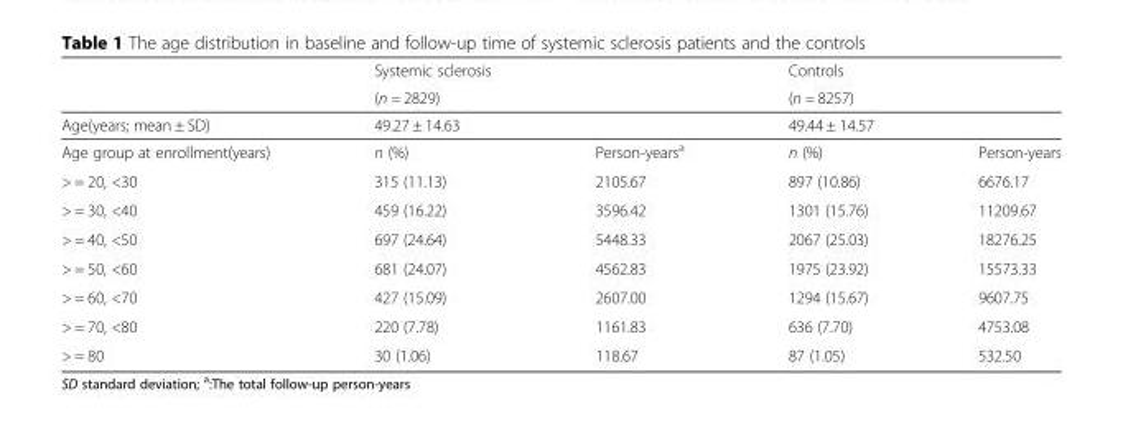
<table><thead><tr><td rowspan="2"></td><td rowspan="2">Systemic sclerosis (n = 2829)</td><td rowspan="2"></td><td rowspan="2">Controls (n = 8257)</td><td rowspan="2"></td></tr><tr></tr></thead><tbody><tr><td>Age(years; mean ± SD)</td><td>49.27 ± 14.63</td><td></td><td>49.44 ± 14.57</td><td></td></tr><tr><td>Age group at enrollment(years)</td><td>n (%)</td><td>Person-years<sup>a</sup></td><td>n (%)</td><td>Person-years</td></tr><tr><td>&gt; = 20, &lt;30</td><td>315 (11.13)</td><td>2105.67</td><td>897 (10.86)</td><td>6676.17</td></tr><tr><td>&gt; = 30, &lt;40</td><td>459 (16.22)</td><td>3596.42</td><td>1301 (15.76)</td><td>11209.67</td></tr><tr><td>&gt; = 40, &lt;50</td><td>697 (24.64)</td><td>5448.33</td><td>2067 (25.03)</td><td>18276.25</td></tr><tr><td>&gt; = 50, &lt;60</td><td>681 (24.07)</td><td>4562.83</td><td>1975 (23.92)</td><td>15573.33</td></tr><tr><td>&gt; = 60, &lt;70</td><td>427 (15.09)</td><td>2607.00</td><td>1294 (15.67)</td><td>9607.75</td></tr><tr><td>&gt; = 70, &lt;80</td><td>220 (7.78)</td><td>1161.83</td><td>636 (7.70)</td><td>4753.08</td></tr><tr><td>&gt; = 80</td><td>30 (1.06)</td><td>118.67</td><td>87 (1.05)</td><td>532.50</td></tr></tbody></table>